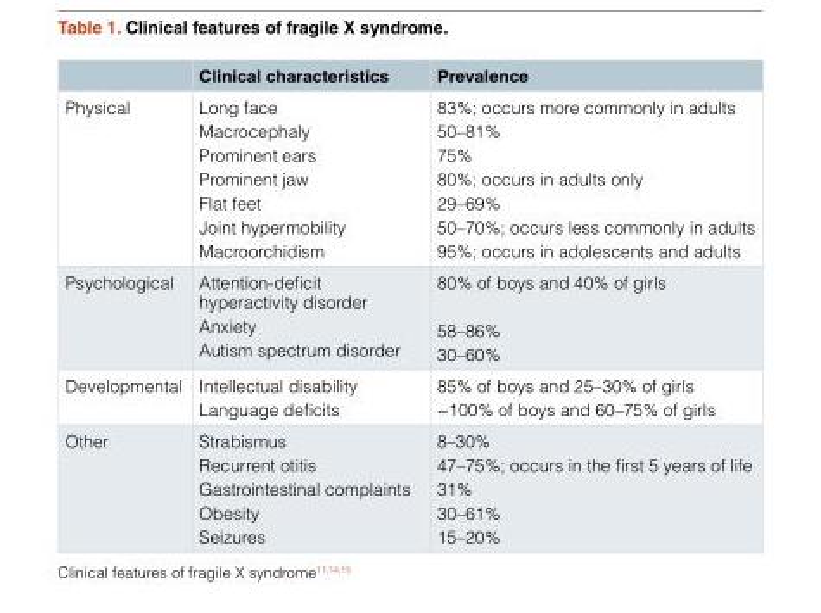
<table><thead><tr><td></td><td>Clinical characteristics</td><td>Prevalence</td></tr></thead><tbody><tr><td>Physical</td><td>Long face Macrocephaly Prominent ears Prominent jaw Flat feet Joint hypermobility Macroorchidism</td><td>83%; occurs more commonly in adults 50–81% 75% 80%; occurs in adults only 29–69% 50–70%; occurs less commonly in adults 95%; occurs in adolescents and adults</td></tr><tr><td>Psychological</td><td>Attention-deficit hyperactivity disorder Anxiety Autism spectrum disorder</td><td>80% of boys and 40% of girls 58–86% 30–60%</td></tr><tr><td>Developmental</td><td>Intellectual disability Language deficits</td><td>85% of boys and 25–30% of girls ~100% of boys and 60–75% of girls</td></tr><tr><td>Other</td><td>Strabismus Recurrent otitis Gastrointestinal complaints Obesity Seizures</td><td>8–30% 47–75%; occurs in the first 5 years of life 31% 30–61% 15–20%</td></tr></tbody></table>